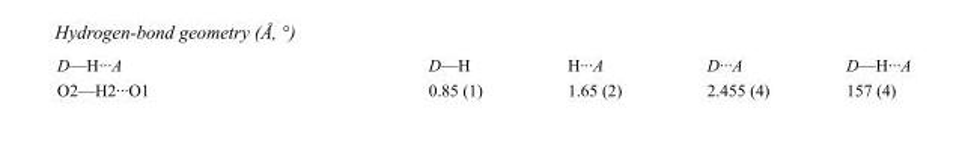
<table><tbody><tr><td>D—H···A</td><td>D—H</td><td>H···A</td><td>D···A</td><td>D—H···A</td></tr><tr><td>O2—H2···O1</td><td>0.85 (1)</td><td>1.65 (2)</td><td>2.455 (4)</td><td>157 (4)</td></tr></tbody></table>